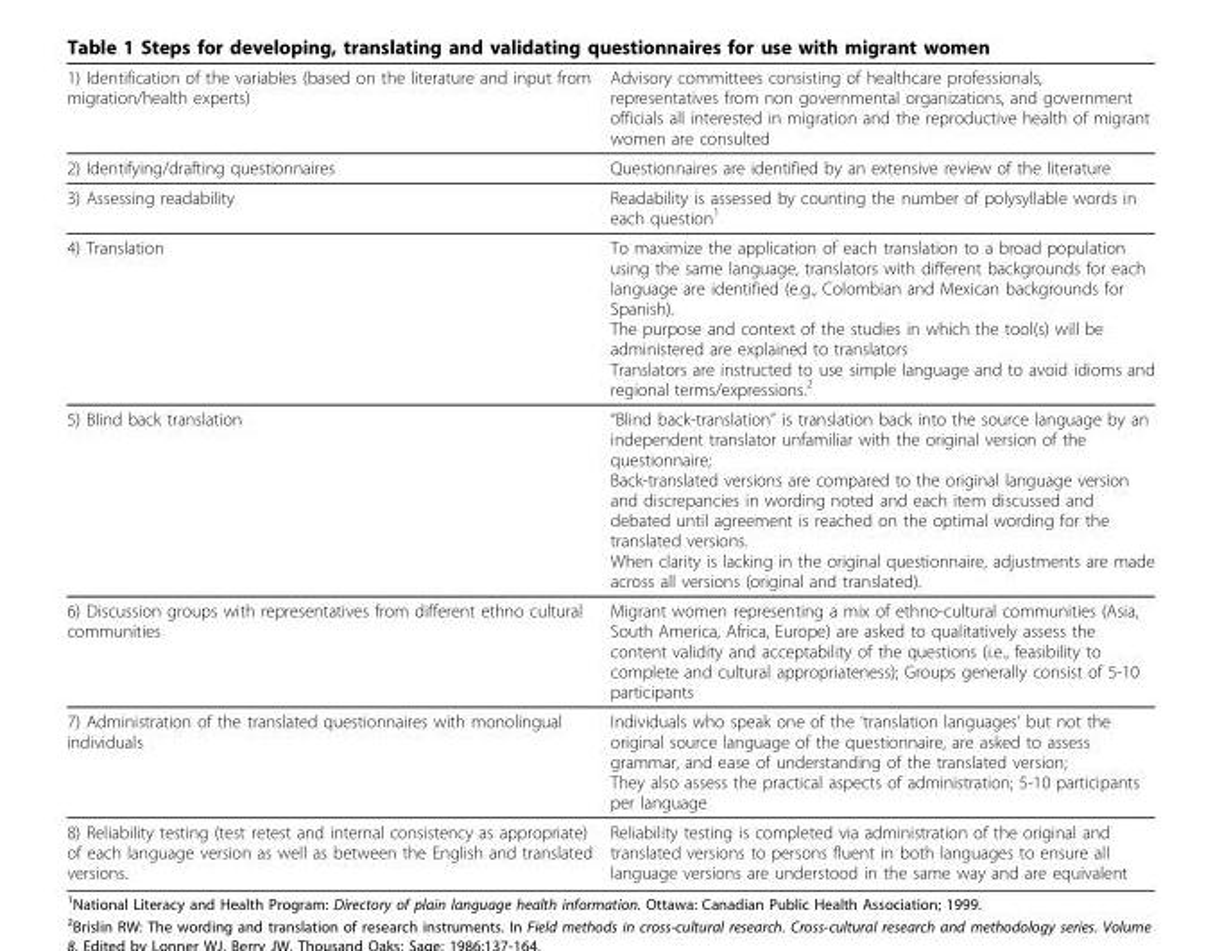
<table><thead><tr><td>1) Identification of the variables (based on the literature and input from migration/health experts)</td><td>Advisory committees consisting of healthcare professionals, representatives from non governmental organizations, and government officials all interested in migration and the reproductive health of migrant women are consulted</td></tr></thead><tbody><tr><td>2) Identifying/drafting questionnaires</td><td>Questionnaires are identified by an extensive review of the literature</td></tr><tr><td>3) Assessing readability</td><td>Readability is assessed by counting the number of polysyllable words in each question<sup>1</sup></td></tr><tr><td>4) Translation</td><td>To maximize the application of each translation to a broad population using the same language, translators with different backgrounds for each language are identified (e.g., Colombian and Mexican backgrounds for Spanish). The purpose and context of the studies in which the tool(s) will be administered are explained to translators Translators are instructed to use simple language and to avoid idioms and regional terms/expressions.<sup>2</sup></td></tr><tr><td>5) Blind back translation</td><td>“Blind back-translation” is translation back into the source language by an independent translator unfamiliar with the original version of the questionnaire; Back-translated versions are compared to the original language version and discrepancies in wording noted and each item discussed and debated until agreement is reached on the optimal wording for the translated versions. When clarity is lacking in the original questionnaire, adjustments are made across all versions (original and translated).</td></tr><tr><td>6) Discussion groups with representatives from different ethno cultural communities</td><td>Migrant women representing a mix of ethno-cultural communities (Asia, South America, Africa, Europe) are asked to qualitatively assess the content validity and acceptability of the questions (i.e., feasibility to complete and cultural appropriateness); Groups generally consist of 5-10 participants</td></tr><tr><td>7) Administration of the translated questionnaires with monolingual individuals</td><td>Individuals who speak one of the ‘translation languages’ but not the original source language of the questionnaire, are asked to assess grammar, and ease of understanding of the translated version; They also assess the practical aspects of administration; 5-10 participants per language</td></tr><tr><td>8) Reliability testing (test retest and internal consistency as appropriate) of each language version as well as between the English and translated versions.</td><td>Reliability testing is completed via administration of the original and translated versions to persons fluent in both languages to ensure all language versions are understood in the same way and are equivalent</td></tr></tbody></table>